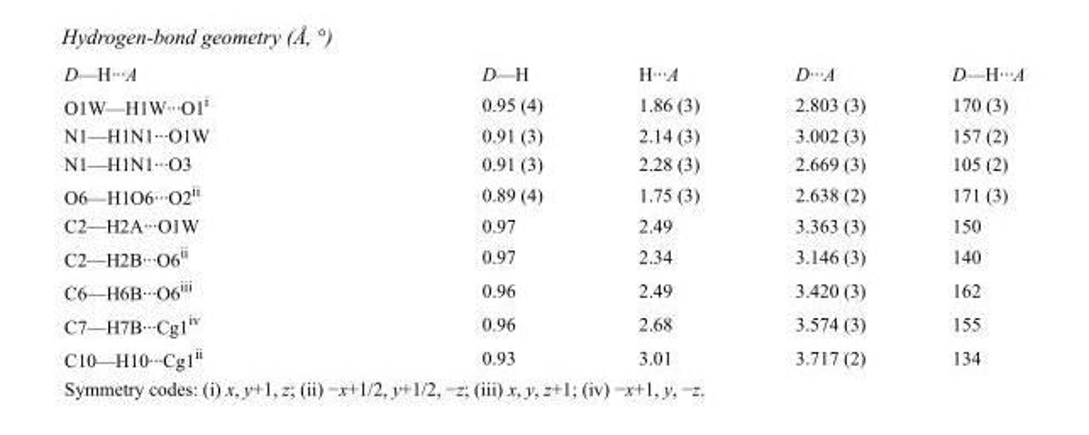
<table><tbody><tr><td>D—H···A</td><td>D—H</td><td>H···A</td><td>D···A</td><td>D—H···A</td></tr><tr><td>O1W—H1W···O1<sup>i</sup></td><td>0.95 (4)</td><td>1.86 (3)</td><td>2.803 (3)</td><td>170 (3)</td></tr><tr><td>N1—H1N1···O1W</td><td>0.91 (3)</td><td>2.14 (3)</td><td>3.002 (3)</td><td>157 (2)</td></tr><tr><td>N1—H1N1···O3</td><td>0.91 (3)</td><td>2.28 (3)</td><td>2.669 (3)</td><td>105 (2)</td></tr><tr><td>O6—H1O6···O2<sup>ii</sup></td><td>0.89 (4)</td><td>1.75 (3)</td><td>2.638 (2)</td><td>171 (3)</td></tr><tr><td>C2—H2A···O1W</td><td>0.97</td><td>2.49</td><td>3.363 (3)</td><td>150</td></tr><tr><td>C2—H2B···O6<sup>ii</sup></td><td>0.97</td><td>2.34</td><td>3.146 (3)</td><td>140</td></tr><tr><td>C6—H6B···O6<sup>iii</sup></td><td>0.96</td><td>2.49</td><td>3.420 (3)</td><td>162</td></tr><tr><td>C7—H7B···Cg1<sup>iv</sup></td><td>0.96</td><td>2.68</td><td>3.574 (3)</td><td>155</td></tr><tr><td>C10—H10···Cg1<sup>ii</sup></td><td>0.93</td><td>3.01</td><td>3.717 (2)</td><td>134</td></tr></tbody></table>